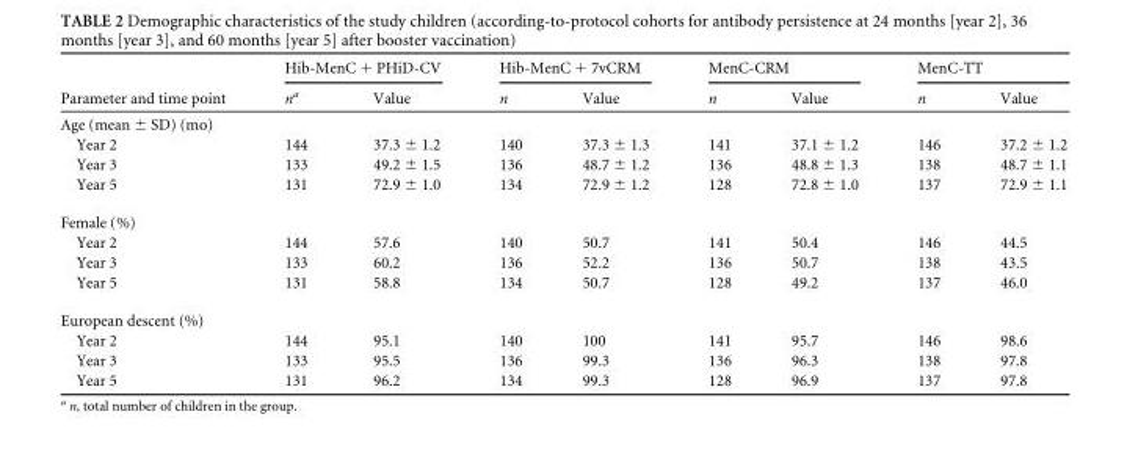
<table><thead><tr><td rowspan="2">Parameter and time point</td><td colspan="2">Hib-MenC + PHiD-CV</td><td colspan="2">Hib-MenC + 7vCRM</td><td colspan="2">MenC-CRM</td><td colspan="2">MenC-TT</td></tr><tr><td>n<sup>a</sup></td><td>Value</td><td>n</td><td>Value</td><td>n</td><td>Value</td><td>n</td><td>Value</td></tr></thead><tbody><tr><td colspan="9">Age (mean ± SD) (mo)</td></tr><tr><td>Year 2</td><td>144</td><td>37.3 ± 1.2</td><td>140</td><td>37.3 ± 1.3</td><td>141</td><td>37.1 ± 1.2</td><td>146</td><td>37.2 ± 1.2</td></tr><tr><td>Year 3</td><td>133</td><td>49.2 ± 1.5</td><td>136</td><td>48.7 ± 1.2</td><td>136</td><td>48.8 ± 1.3</td><td>138</td><td>48.7 ± 1.1</td></tr><tr><td>Year 5</td><td>131</td><td>72.9 ± 1.0</td><td>134</td><td>72.9 ± 1.2</td><td>128</td><td>72.8 ± 1.0</td><td>137</td><td>72.9 ± 1.1</td></tr><tr><td colspan="9">Female (%)</td></tr><tr><td>Year 2</td><td>144</td><td>57.6</td><td>140</td><td>50.7</td><td>141</td><td>50.4</td><td>146</td><td>44.5</td></tr><tr><td>Year 3</td><td>133</td><td>60.2</td><td>136</td><td>52.2</td><td>136</td><td>50.7</td><td>138</td><td>43.5</td></tr><tr><td>Year 5</td><td>131</td><td>58.8</td><td>134</td><td>50.7</td><td>128</td><td>49.2</td><td>137</td><td>46.0</td></tr><tr><td colspan="9">European descent (%)</td></tr><tr><td>Year 2</td><td>144</td><td>95.1</td><td>140</td><td>100</td><td>141</td><td>95.7</td><td>146</td><td>98.6</td></tr><tr><td>Year 3</td><td>133</td><td>95.5</td><td>136</td><td>99.3</td><td>136</td><td>96.3</td><td>138</td><td>97.8</td></tr><tr><td>Year 5</td><td>131</td><td>96.2</td><td>134</td><td>99.3</td><td>128</td><td>96.9</td><td>137</td><td>97.8</td></tr></tbody></table>